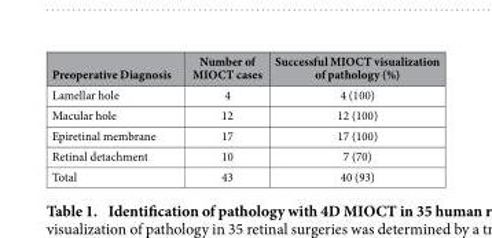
<table><thead><tr><td>Preoperative Diagnosis</td><td>Number of MIOCT cases</td><td>Successful MIOCT visualization of pathology (%)</td></tr></thead><tbody><tr><td>Lamellar hole</td><td>4</td><td>4 (100)</td></tr><tr><td>Macular hole</td><td>12</td><td>12 (100)</td></tr><tr><td>Epiretinal membrane</td><td>17</td><td>17 (100)</td></tr><tr><td>Retinal detachment</td><td>10</td><td>7 (70)</td></tr><tr><td>Total</td><td>43</td><td>40 (93)</td></tr></tbody></table>